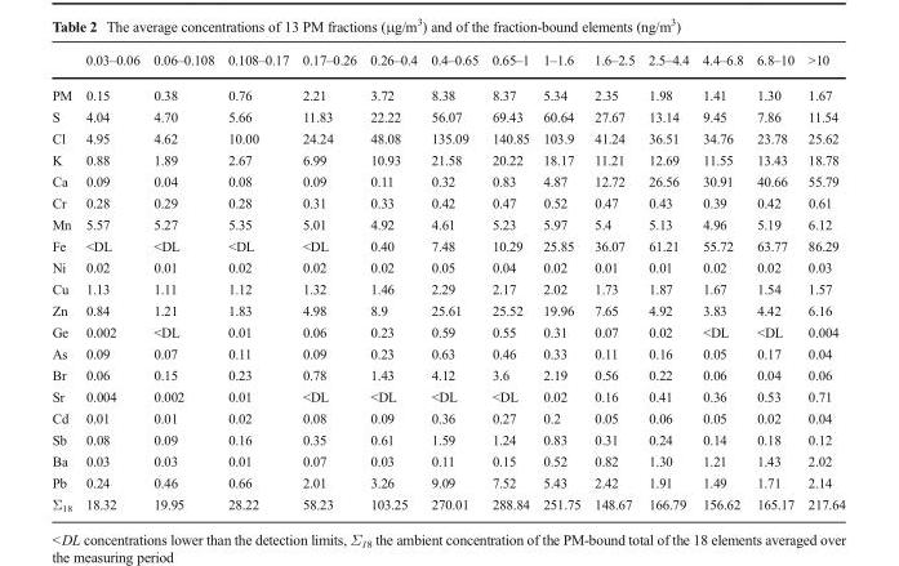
<table><thead><tr><td></td><td>0.03–0.06</td><td>0.06–0.108</td><td>0.108–0.17</td><td>0.17–0.26</td><td>0.26–0.4</td><td>0.4–0.65</td><td>0.65–1</td><td>1–1.6</td><td>1.6–2.5</td><td>2.5–4.4</td><td>4.4–6.8</td><td>6.8–10</td><td>&gt;10</td></tr></thead><tbody><tr><td>PM</td><td>0.15</td><td>0.38</td><td>0.76</td><td>2.21</td><td>3.72</td><td>8.38</td><td>8.37</td><td>5.34</td><td>2.35</td><td>1.98</td><td>1.41</td><td>1.30</td><td>1.67</td></tr><tr><td>S</td><td>4.04</td><td>4.70</td><td>5.66</td><td>11.83</td><td>22.22</td><td>56.07</td><td>69.43</td><td>60.64</td><td>27.67</td><td>13.14</td><td>9.45</td><td>7.86</td><td>11.54</td></tr><tr><td>Cl</td><td>4.95</td><td>4.62</td><td>10.00</td><td>24.24</td><td>48.08</td><td>135.09</td><td>140.85</td><td>103.9</td><td>41.24</td><td>36.51</td><td>34.76</td><td>23.78</td><td>25.62</td></tr><tr><td>K</td><td>0.88</td><td>1.89</td><td>2.67</td><td>6.99</td><td>10.93</td><td>21.58</td><td>20.22</td><td>18.17</td><td>11.21</td><td>12.69</td><td>11.55</td><td>13.43</td><td>18.78</td></tr><tr><td>Ca</td><td>0.09</td><td>0.04</td><td>0.08</td><td>0.09</td><td>0.11</td><td>0.32</td><td>0.83</td><td>4.87</td><td>12.72</td><td>26.56</td><td>30.91</td><td>40.66</td><td>55.79</td></tr><tr><td>Cr</td><td>0.28</td><td>0.29</td><td>0.28</td><td>0.31</td><td>0.33</td><td>0.42</td><td>0.47</td><td>0.52</td><td>0.47</td><td>0.43</td><td>0.39</td><td>0.42</td><td>0.61</td></tr><tr><td>Mn</td><td>5.57</td><td>5.27</td><td>5.35</td><td>5.01</td><td>4.92</td><td>4.61</td><td>5.23</td><td>5.97</td><td>5.4</td><td>5.13</td><td>4.96</td><td>5.19</td><td>6.12</td></tr><tr><td>Fe</td><td>&lt;DL</td><td>&lt;DL</td><td>&lt;DL</td><td>&lt;DL</td><td>0.40</td><td>7.48</td><td>10.29</td><td>25.85</td><td>36.07</td><td>61.21</td><td>55.72</td><td>63.77</td><td>86.29</td></tr><tr><td>Ni</td><td>0.02</td><td>0.01</td><td>0.02</td><td>0.02</td><td>0.02</td><td>0.05</td><td>0.04</td><td>0.02</td><td>0.01</td><td>0.01</td><td>0.02</td><td>0.02</td><td>0.03</td></tr><tr><td>Cu</td><td>1.13</td><td>1.11</td><td>1.12</td><td>1.32</td><td>1.46</td><td>2.29</td><td>2.17</td><td>2.02</td><td>1.73</td><td>1.87</td><td>1.67</td><td>1.54</td><td>1.57</td></tr><tr><td>Zn</td><td>0.84</td><td>1.21</td><td>1.83</td><td>4.98</td><td>8.9</td><td>25.61</td><td>25.52</td><td>19.96</td><td>7.65</td><td>4.92</td><td>3.83</td><td>4.42</td><td>6.16</td></tr><tr><td>Ge</td><td>0.002</td><td>&lt;DL</td><td>0.01</td><td>0.06</td><td>0.23</td><td>0.59</td><td>0.55</td><td>0.31</td><td>0.07</td><td>0.02</td><td>&lt;DL</td><td>&lt;DL</td><td>0.004</td></tr><tr><td>As</td><td>0.09</td><td>0.07</td><td>0.11</td><td>0.09</td><td>0.23</td><td>0.63</td><td>0.46</td><td>0.33</td><td>0.11</td><td>0.16</td><td>0.05</td><td>0.17</td><td>0.04</td></tr><tr><td>Br</td><td>0.06</td><td>0.15</td><td>0.23</td><td>0.78</td><td>1.43</td><td>4.12</td><td>3.6</td><td>2.19</td><td>0.56</td><td>0.22</td><td>0.06</td><td>0.04</td><td>0.06</td></tr><tr><td>Sr</td><td>0.004</td><td>0.002</td><td>0.01</td><td>&lt;DL</td><td>&lt;DL</td><td>&lt;DL</td><td>&lt;DL</td><td>0.02</td><td>0.16</td><td>0.41</td><td>0.36</td><td>0.53</td><td>0.71</td></tr><tr><td>Cd</td><td>0.01</td><td>0.01</td><td>0.02</td><td>0.08</td><td>0.09</td><td>0.36</td><td>0.27</td><td>0.2</td><td>0.05</td><td>0.06</td><td>0.05</td><td>0.02</td><td>0.04</td></tr><tr><td>Sb</td><td>0.08</td><td>0.09</td><td>0.16</td><td>0.35</td><td>0.61</td><td>1.59</td><td>1.24</td><td>0.83</td><td>0.31</td><td>0.24</td><td>0.14</td><td>0.18</td><td>0.12</td></tr><tr><td>Ba</td><td>0.03</td><td>0.03</td><td>0.01</td><td>0.07</td><td>0.03</td><td>0.11</td><td>0.15</td><td>0.52</td><td>0.82</td><td>1.30</td><td>1.21</td><td>1.43</td><td>2.02</td></tr><tr><td>Pb</td><td>0.24</td><td>0.46</td><td>0.66</td><td>2.01</td><td>3.26</td><td>9.09</td><td>7.52</td><td>5.43</td><td>2.42</td><td>1.91</td><td>1.49</td><td>1.71</td><td>2.14</td></tr><tr><td>Σ<sub>18</sub></td><td>18.32</td><td>19.95</td><td>28.22</td><td>58.23</td><td>103.25</td><td>270.01</td><td>288.84</td><td>251.75</td><td>148.67</td><td>166.79</td><td>156.62</td><td>165.17</td><td>217.64</td></tr></tbody></table>